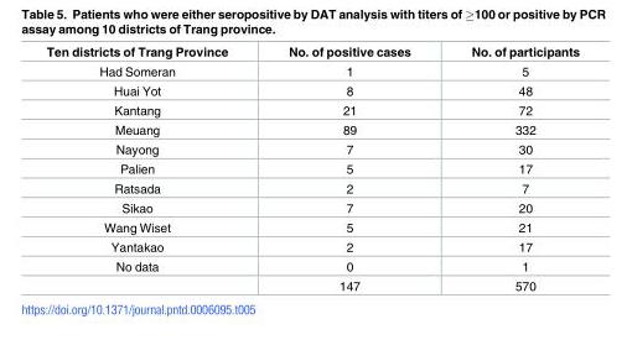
<table><thead><tr><td>Ten districts of Trang Province</td><td>No. of positive cases</td><td>No. of participants</td></tr></thead><tbody><tr><td>Had Someran</td><td>1</td><td>5</td></tr><tr><td>Huai Yot</td><td>8</td><td>48</td></tr><tr><td>Kantang</td><td>21</td><td>72</td></tr><tr><td>Meuang</td><td>89</td><td>332</td></tr><tr><td>Nayong</td><td>7</td><td>30</td></tr><tr><td>Palien</td><td>5</td><td>17</td></tr><tr><td>Ratsada</td><td>2</td><td>7</td></tr><tr><td>Sikao</td><td>7</td><td>20</td></tr><tr><td>Wang Wiset</td><td>5</td><td>21</td></tr><tr><td>Yantakao</td><td>2</td><td>17</td></tr><tr><td rowspan="2">No data</td><td>0</td><td>1</td></tr><tr><td>147</td><td>570</td></tr></tbody></table>